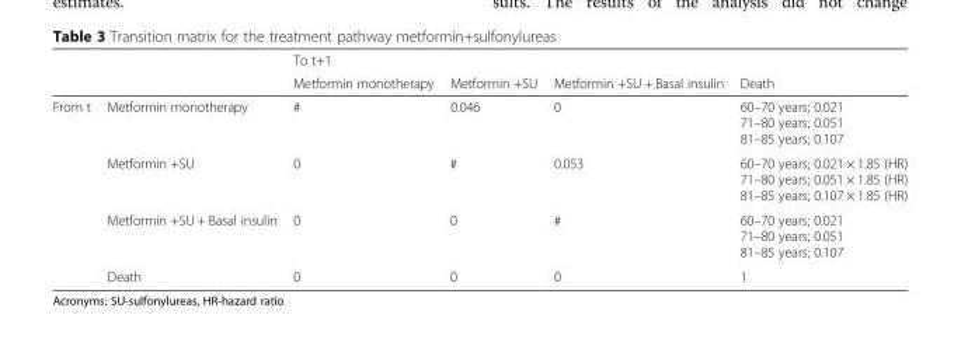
<table><thead><tr><td rowspan="2"></td><td rowspan="2"></td><td rowspan="2">To t+1 Metformin monotherapy</td><td rowspan="2">Metformin +SU</td><td rowspan="2">Metformin +SU + Basal insulin</td><td rowspan="2">Death</td></tr><tr></tr></thead><tbody><tr><td rowspan="4">From t</td><td>Metformin monotherapy</td><td>#</td><td>0.046</td><td>0</td><td>60–70 years; 0.021 71–80 years; 0.051 81–85 years; 0.107</td></tr><tr><td>Metformin +SU</td><td>0</td><td>#</td><td>0.053</td><td>60–70 years; 0.021 × 1.85 (HR) 71–80 years; 0.051 × 1.85 (HR) 81–85 years; 0.107 × 1.85 (HR)</td></tr><tr><td>Metformin +SU + Basal insulin</td><td>0</td><td>0</td><td>#</td><td>60–70 years; 0.021 71–80 years; 0.051 81–85 years; 0.107</td></tr><tr><td>Death</td><td>0</td><td>0</td><td>0</td><td>1</td></tr></tbody></table>